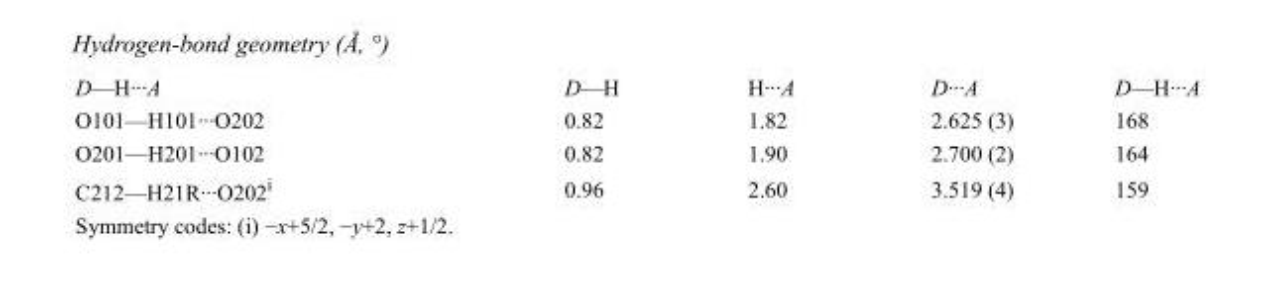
<table><tbody><tr><td>D—H···A</td><td>D—H</td><td>H···A</td><td>D···A</td><td>D—H···A</td></tr><tr><td>O101—H101···O202</td><td>0.82</td><td>1.82</td><td>2.625 (3)</td><td>168</td></tr><tr><td>O201—H201···O102</td><td>0.82</td><td>1.90</td><td>2.700 (2)</td><td>164</td></tr><tr><td>C212—H21R···O202<sup>i</sup></td><td>0.96</td><td>2.60</td><td>3.519 (4)</td><td>159</td></tr></tbody></table>